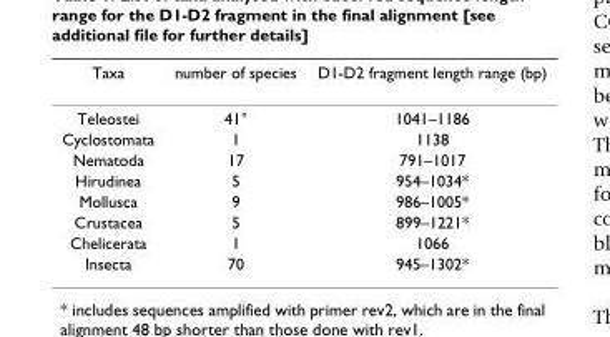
<table><thead><tr><td>Taxa</td><td>number of species</td><td>D1-D2 fragment length range (bp)</td></tr></thead><tbody><tr><td>Teleostei</td><td>41°</td><td>1041–1186</td></tr><tr><td>Cyclostomata</td><td>1</td><td>1138</td></tr><tr><td>Nematoda</td><td>17</td><td>791–1017</td></tr><tr><td>Hirudinea</td><td>5</td><td>954–1034*</td></tr><tr><td>Mollusca</td><td>9</td><td>986–1005*</td></tr><tr><td>Crustacea</td><td>5</td><td>899–1221*</td></tr><tr><td>Chelicerata</td><td>1</td><td>1066</td></tr><tr><td>Insecta</td><td>70</td><td>945–1302*</td></tr></tbody></table>